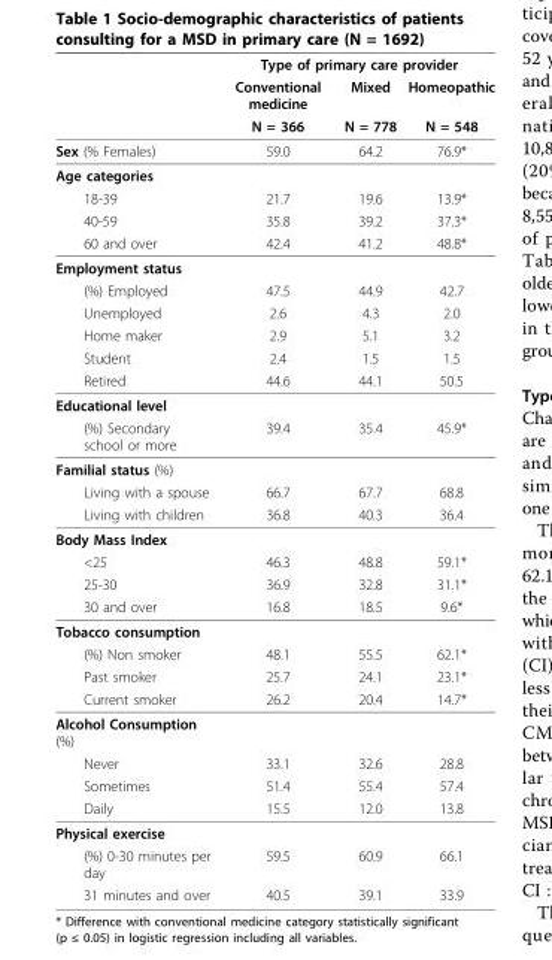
<table><thead><tr><td rowspan="3"></td><td colspan="3">Type of primary care provider</td></tr><tr><td rowspan="2">Conventional medicine N = 366</td><td rowspan="2">Mixed N = 778</td><td rowspan="2">Homeopathic N = 548</td></tr><tr></tr></thead><tbody><tr><td>Sex (% Females)</td><td>59.0</td><td>64.2</td><td>76.9*</td></tr><tr><td colspan="4">Age categories</td></tr><tr><td>18-39</td><td>21.7</td><td>19.6</td><td>13.9*</td></tr><tr><td>40-59</td><td>35.8</td><td>39.2</td><td>37.3*</td></tr><tr><td>60 and over</td><td>42.4</td><td>41.2</td><td>48.8*</td></tr><tr><td colspan="4">Employment status</td></tr><tr><td>(%) Employed</td><td>47.5</td><td>44.9</td><td>42.7</td></tr><tr><td>Unemployed</td><td>2.6</td><td>4.3</td><td>2.0</td></tr><tr><td>Home maker</td><td>2.9</td><td>5.1</td><td>3.2</td></tr><tr><td>Student</td><td>2.4</td><td>1.5</td><td>1.5</td></tr><tr><td>Retired</td><td>44.6</td><td>44.1</td><td>50.5</td></tr><tr><td colspan="4">Educational level</td></tr><tr><td>(%) Secondary school or more</td><td>39.4</td><td>35.4</td><td>45.9*</td></tr><tr><td colspan="4">Familial status (%)</td></tr><tr><td>Living with a spouse</td><td>66.7</td><td>67.7</td><td>68.8</td></tr><tr><td>Living with children</td><td>36.8</td><td>40.3</td><td>36.4</td></tr><tr><td colspan="4">Body Mass Index</td></tr><tr><td>&lt;25</td><td>46.3</td><td>48.8</td><td>59.1*</td></tr><tr><td>25-30</td><td>36.9</td><td>32.8</td><td>31.1*</td></tr><tr><td>30 and over</td><td>16.8</td><td>18.5</td><td>9.6*</td></tr><tr><td colspan="4">Tobacco consumption</td></tr><tr><td>(%) Non smoker</td><td>48.1</td><td>55.5</td><td>62.1*</td></tr><tr><td>Past smoker</td><td>25.7</td><td>24.1</td><td>23.1*</td></tr><tr><td>Current smoker</td><td>26.2</td><td>20.4</td><td>14.7*</td></tr><tr><td colspan="4">Alcohol Consumption (%)</td></tr><tr><td>Never</td><td>33.1</td><td>32.6</td><td>28.8</td></tr><tr><td>Sometimes</td><td>51.4</td><td>55.4</td><td>57.4</td></tr><tr><td>Daily</td><td>15.5</td><td>12.0</td><td>13.8</td></tr><tr><td colspan="4">Physical exercise</td></tr><tr><td>(%) 0-30 minutes per day</td><td>59.5</td><td>60.9</td><td>66.1</td></tr><tr><td>31 minutes and over</td><td>40.5</td><td>39.1</td><td>33.9</td></tr></tbody></table>